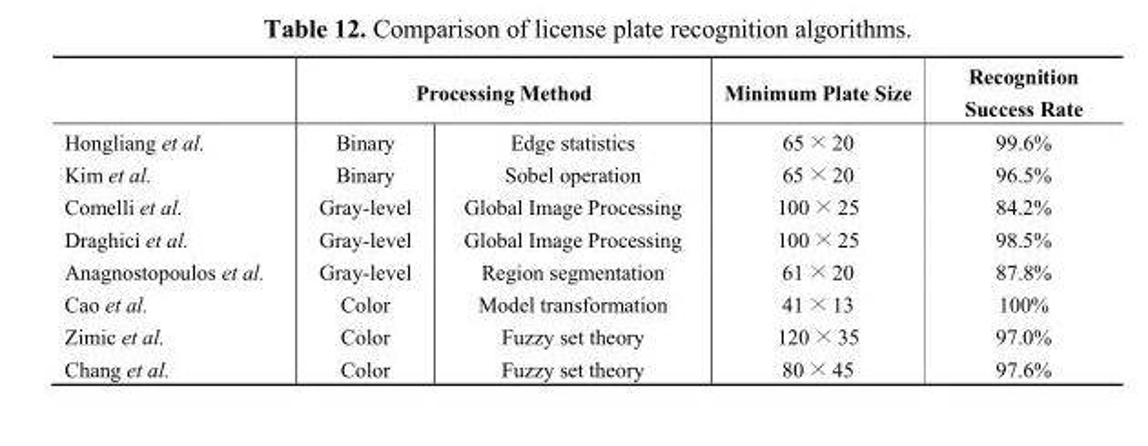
<table><thead><tr><td rowspan="2">Hongliang et al.</td><td colspan="2">Processing Method</td><td rowspan="2">Minimum Plate Size 65 × 20</td><td rowspan="2">Recognition Success Rate 99.6%</td></tr><tr><td>Binary</td><td>Edge statistics</td></tr></thead><tbody><tr><td>Kim et al.</td><td>Binary</td><td>Sobel operation</td><td>65 × 20</td><td>96.5%</td></tr><tr><td>Comelli et al.</td><td>Gray-level</td><td>Global Image Processing</td><td>100 × 25</td><td>84.2%</td></tr><tr><td>Draghici et al.</td><td>Gray-level</td><td>Global Image Processing</td><td>100 × 25</td><td>98.5%</td></tr><tr><td>Anagnostopoulos et al.</td><td>Gray-level</td><td>Region segmentation</td><td>61 × 20</td><td>87.8%</td></tr><tr><td>Cao et al.</td><td>Color</td><td>Model transformation</td><td>41 × 13</td><td>100%</td></tr><tr><td>Zimic et al.</td><td>Color</td><td>Fuzzy set theory</td><td>120 × 35</td><td>97.0%</td></tr><tr><td>Chang et al.</td><td>Color</td><td>Fuzzy set theory</td><td>80 × 45</td><td>97.6%</td></tr></tbody></table>